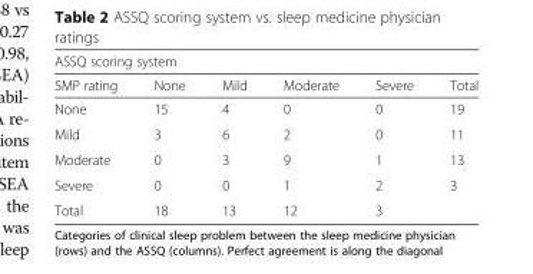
<table><thead><tr><td colspan="6">ASSQ scoring system</td></tr><tr><td>SMP rating</td><td>None</td><td>Mild</td><td>Moderate</td><td>Severe</td><td>Total</td></tr></thead><tbody><tr><td>None</td><td>15</td><td>4</td><td>0</td><td>0</td><td>19</td></tr><tr><td>Mild</td><td>3</td><td>6</td><td>2</td><td>0</td><td>11</td></tr><tr><td>Moderate</td><td>0</td><td>3</td><td>9</td><td>1</td><td>13</td></tr><tr><td>Severe</td><td>0</td><td>0</td><td>1</td><td>2</td><td>3</td></tr><tr><td>Total</td><td>18</td><td>13</td><td>12</td><td>3</td><td></td></tr></tbody></table>